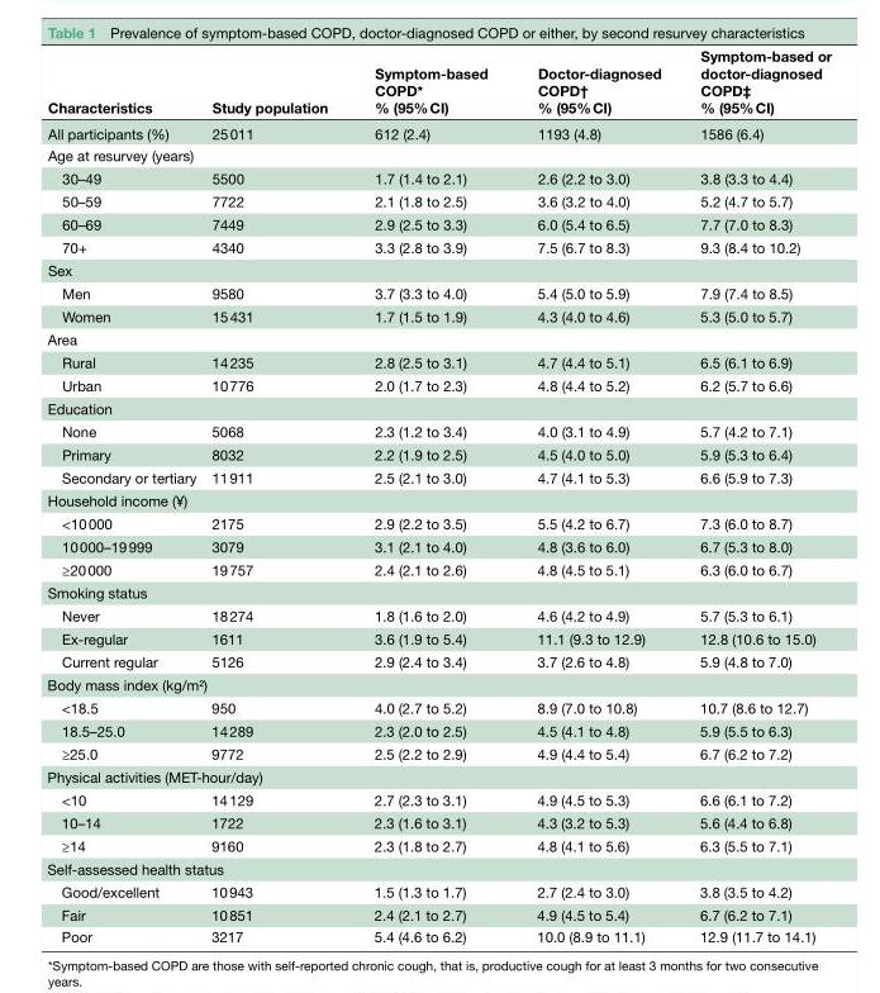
<table><thead><tr><td>Characteristics</td><td>Study population</td><td>Symptom-based COPD* % (95% CI)</td><td>Doctor-diagnosed COPD† % (95% CI)</td><td>Symptom-based or doctor-diagnosed COPD‡ % (95% CI)</td></tr></thead><tbody><tr><td>All participants (%)</td><td>25 011</td><td>612 (2.4)</td><td>1193 (4.8)</td><td>1586 (6.4)</td></tr><tr><td colspan="5">Age at resurvey (years)</td></tr><tr><td>30–49</td><td>5500</td><td>1.7 (1.4 to 2.1)</td><td>2.6 (2.2 to 3.0)</td><td>3.8 (3.3 to 4.4)</td></tr><tr><td>50–59</td><td>7722</td><td>2.1 (1.8 to 2.5)</td><td>3.6 (3.2 to 4.0)</td><td>5.2 (4.7 to 5.7)</td></tr><tr><td>60–69</td><td>7449</td><td>2.9 (2.5 to 3.3)</td><td>6.0 (5.4 to 6.5)</td><td>7.7 (7.0 to 8.3)</td></tr><tr><td>70+</td><td>4340</td><td>3.3 (2.8 to 3.9)</td><td>7.5 (6.7 to 8.3)</td><td>9.3 (8.4 to 10.2)</td></tr><tr><td colspan="5">Sex</td></tr><tr><td>Men</td><td>9580</td><td>3.7 (3.3 to 4.0)</td><td>5.4 (5.0 to 5.9)</td><td>7.9 (7.4 to 8.5)</td></tr><tr><td>Women</td><td>15 431</td><td>1.7 (1.5 to 1.9)</td><td>4.3 (4.0 to 4.6)</td><td>5.3 (5.0 to 5.7)</td></tr><tr><td colspan="5">Area</td></tr><tr><td>Rural</td><td>14 235</td><td>2.8 (2.5 to 3.1)</td><td>4.7 (4.4 to 5.1)</td><td>6.5 (6.1 to 6.9)</td></tr><tr><td>Urban</td><td>10 776</td><td>2.0 (1.7 to 2.3)</td><td>4.8 (4.4 to 5.2)</td><td>6.2 (5.7 to 6.6)</td></tr><tr><td colspan="5">Education</td></tr><tr><td>None</td><td>5068</td><td>2.3 (1.2 to 3.4)</td><td>4.0 (3.1 to 4.9)</td><td>5.7 (4.2 to 7.1)</td></tr><tr><td>Primary</td><td>8032</td><td>2.2 (1.9 to 2.5)</td><td>4.5 (4.0 to 5.0)</td><td>5.9 (5.3 to 6.4)</td></tr><tr><td>Secondary or tertiary</td><td>11 911</td><td>2.5 (2.1 to 3.0)</td><td>4.7 (4.1 to 5.3)</td><td>6.6 (5.9 to 7.3)</td></tr><tr><td colspan="5">Household income (¥)</td></tr><tr><td>&lt;10 000</td><td>2175</td><td>2.9 (2.2 to 3.5)</td><td>5.5 (4.2 to 6.7)</td><td>7.3 (6.0 to 8.7)</td></tr><tr><td>10 000–19 999</td><td>3079</td><td>3.1 (2.1 to 4.0)</td><td>4.8 (3.6 to 6.0)</td><td>6.7 (5.3 to 8.0)</td></tr><tr><td>≥20 000</td><td>19 757</td><td>2.4 (2.1 to 2.6)</td><td>4.8 (4.5 to 5.1)</td><td>6.3 (6.0 to 6.7)</td></tr><tr><td colspan="5">Smoking status</td></tr><tr><td>Never</td><td>18 274</td><td>1.8 (1.6 to 2.0)</td><td>4.6 (4.2 to 4.9)</td><td>5.7 (5.3 to 6.1)</td></tr><tr><td>Ex-regular</td><td>1611</td><td>3.6 (1.9 to 5.4)</td><td>11.1 (9.3 to 12.9)</td><td>12.8 (10.6 to 15.0)</td></tr><tr><td>Current regular</td><td>5126</td><td>2.9 (2.4 to 3.4)</td><td>3.7 (2.6 to 4.8)</td><td>5.9 (4.8 to 7.0)</td></tr><tr><td colspan="5">Body mass index (kg/m²)</td></tr><tr><td>&lt;18.5</td><td>950</td><td>4.0 (2.7 to 5.2)</td><td>8.9 (7.0 to 10.8)</td><td>10.7 (8.6 to 12.7)</td></tr><tr><td>18.5–25.0</td><td>14 289</td><td>2.3 (2.0 to 2.5)</td><td>4.5 (4.1 to 4.8)</td><td>5.9 (5.5 to 6.3)</td></tr><tr><td>≥25.0</td><td>9772</td><td>2.5 (2.2 to 2.9)</td><td>4.9 (4.4 to 5.4)</td><td>6.7 (6.2 to 7.2)</td></tr><tr><td colspan="5">Physical activities (MET-hour/day)</td></tr><tr><td>&lt;10</td><td>14 129</td><td>2.7 (2.3 to 3.1)</td><td>4.9 (4.5 to 5.3)</td><td>6.6 (6.1 to 7.2)</td></tr><tr><td>10–14</td><td>1722</td><td>2.3 (1.6 to 3.1)</td><td>4.3 (3.2 to 5.3)</td><td>5.6 (4.4 to 6.8)</td></tr><tr><td>≥14</td><td>9160</td><td>2.3 (1.8 to 2.7)</td><td>4.8 (4.1 to 5.6)</td><td>6.3 (5.5 to 7.1)</td></tr><tr><td colspan="5">Self-assessed health status</td></tr><tr><td>Good/excellent</td><td>10 943</td><td>1.5 (1.3 to 1.7)</td><td>2.7 (2.4 to 3.0)</td><td>3.8 (3.5 to 4.2)</td></tr><tr><td>Fair</td><td>10 851</td><td>2.4 (2.1 to 2.7)</td><td>4.9 (4.5 to 5.4)</td><td>6.7 (6.2 to 7.1)</td></tr><tr><td>Poor</td><td>3217</td><td>5.4 (4.6 to 6.2)</td><td>10.0 (8.9 to 11.1)</td><td>12.9 (11.7 to 14.1)</td></tr></tbody></table>